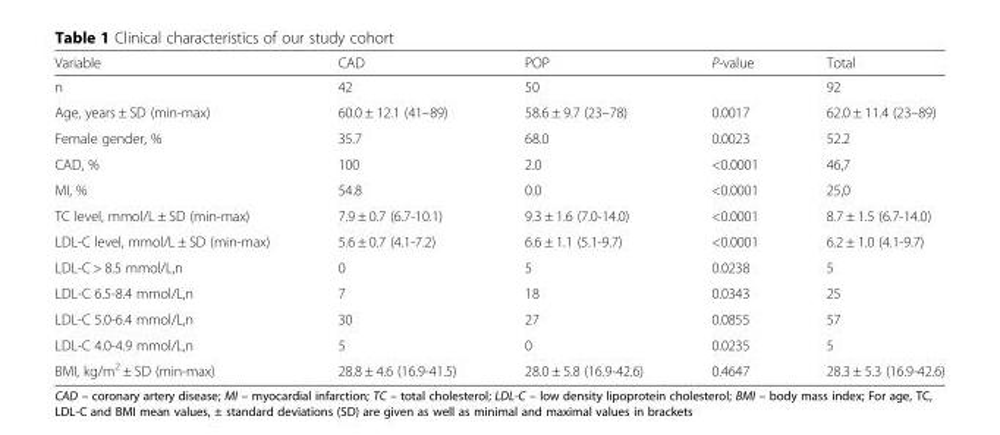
<table><thead><tr><td>Variable</td><td>CAD</td><td>POP</td><td>P-value</td><td>Total</td></tr></thead><tbody><tr><td>n</td><td>42</td><td>50</td><td></td><td>92</td></tr><tr><td>Age, years ± SD (min-max)</td><td>60.0 ± 12.1 (41–89)</td><td>58.6 ± 9.7 (23–78)</td><td>0.0017</td><td>62.0 ± 11.4 (23–89)</td></tr><tr><td>Female gender, %</td><td>35.7</td><td>68.0</td><td>0.0023</td><td>52.2</td></tr><tr><td>CAD, %</td><td>100</td><td>2.0</td><td>&lt;0.0001</td><td>46,7</td></tr><tr><td>MI, %</td><td>54.8</td><td>0.0</td><td>&lt;0.0001</td><td>25,0</td></tr><tr><td>TC level, mmol/L ± SD (min-max)</td><td>7.9 ± 0.7 (6.7-10.1)</td><td>9.3 ± 1.6 (7.0-14.0)</td><td>&lt;0.0001</td><td>8.7 ± 1.5 (6.7-14.0)</td></tr><tr><td>LDL-C level, mmol/L ± SD (min-max)</td><td>5.6 ± 0.7 (4.1-7.2)</td><td>6.6 ± 1.1 (5.1-9.7)</td><td>&lt;0.0001</td><td>6.2 ± 1.0 (4.1-9.7)</td></tr><tr><td>LDL-C &gt; 8.5 mmol/L,n</td><td>0</td><td>5</td><td>0.0238</td><td>5</td></tr><tr><td>LDL-C 6.5-8.4 mmol/L,n</td><td>7</td><td>18</td><td>0.0343</td><td>25</td></tr><tr><td>LDL-C 5.0-6.4 mmol/L,n</td><td>30</td><td>27</td><td>0.0855</td><td>57</td></tr><tr><td>LDL-C 4.0-4.9 mmol/L,n</td><td>5</td><td>0</td><td>0.0235</td><td>5</td></tr><tr><td>BMI, kg/m<sup>2</sup> ± SD (min-max)</td><td>28.8 ± 4.6 (16.9-41.5)</td><td>28.0 ± 5.8 (16.9-42.6)</td><td>0.4647</td><td>28.3 ± 5.3 (16.9-42.6)</td></tr></tbody></table>